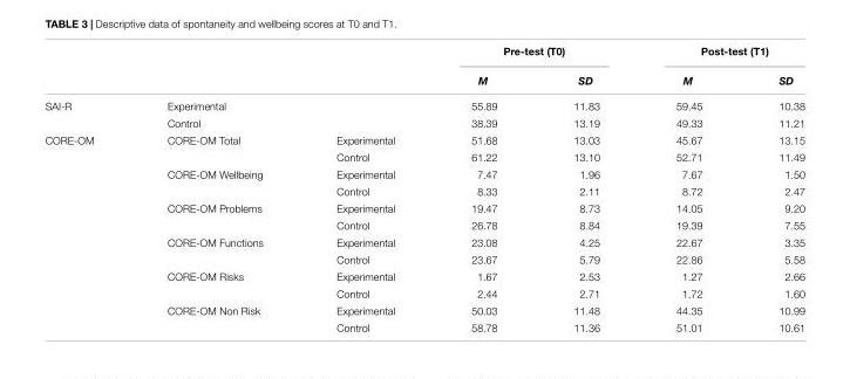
<table><thead><tr><td rowspan="2"></td><td rowspan="2"></td><td rowspan="2"></td><td colspan="2">Pre-test (T0)</td><td colspan="2">Post-test (T1)</td></tr><tr><td>M</td><td>SD</td><td>M</td><td>SD</td></tr></thead><tbody><tr><td rowspan="2">SAI-R</td><td colspan="2">Experimental</td><td>55.89</td><td>11.83</td><td>59.45</td><td>10.38</td></tr><tr><td colspan="2">Control</td><td>38.39</td><td>13.19</td><td>49.33</td><td>11.21</td></tr><tr><td rowspan="12">CORE-OM</td><td>CORE-OM Total</td><td>Experimental</td><td>51.68</td><td>13.03</td><td>45.67</td><td>13.15</td></tr><tr><td></td><td>Control</td><td>61.22</td><td>13.10</td><td>52.71</td><td>11.49</td></tr><tr><td>CORE-OM Wellbeing</td><td>Experimental</td><td>7.47</td><td>1.96</td><td>7.67</td><td>1.50</td></tr><tr><td></td><td>Control</td><td>8.33</td><td>2.11</td><td>8.72</td><td>2.47</td></tr><tr><td>CORE-OM Problems</td><td>Experimental</td><td>19.47</td><td>8.73</td><td>14.05</td><td>9.20</td></tr><tr><td></td><td>Control</td><td>26.78</td><td>8.84</td><td>19.39</td><td>7.55</td></tr><tr><td>CORE-OM Functions</td><td>Experimental</td><td>23.08</td><td>4.25</td><td>22.67</td><td>3.35</td></tr><tr><td></td><td>Control</td><td>23.67</td><td>5.79</td><td>22.86</td><td>5.58</td></tr><tr><td>CORE-OM Risks</td><td>Experimental</td><td>1.67</td><td>2.53</td><td>1.27</td><td>2.66</td></tr><tr><td></td><td>Control</td><td>2.44</td><td>2.71</td><td>1.72</td><td>1.60</td></tr><tr><td>CORE-OM Non Risk</td><td>Experimental</td><td>50.03</td><td>11.48</td><td>44.35</td><td>10.99</td></tr><tr><td></td><td>Control</td><td>58.78</td><td>11.36</td><td>51.01</td><td>10.61</td></tr></tbody></table>